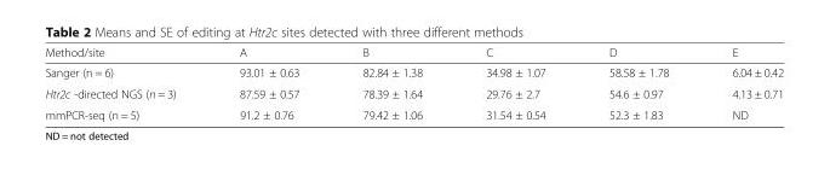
<table><thead><tr><td>Method/site</td><td>A</td><td>B</td><td>C</td><td>D</td><td>E</td></tr></thead><tbody><tr><td>Sanger (n = 6)</td><td>93.01 ± 0.63</td><td>82.84 ± 1.38</td><td>34.98 ± 1.07</td><td>58.58 ± 1.78</td><td>6.04 ± 0.42</td></tr><tr><td>Htr2c -directed NGS (n = 3)</td><td>87.59 ± 0.57</td><td>78.39 ± 1.64</td><td>29.76 ± 2.7</td><td>54.6 ± 0.97</td><td>4.13 ± 0.71</td></tr><tr><td>mmPCR-seq (n = 5)</td><td>91.2 ± 0.76</td><td>79.42 ± 1.06</td><td>31.54 ± 0.54</td><td>52.3 ± 1.83</td><td>ND</td></tr></tbody></table>